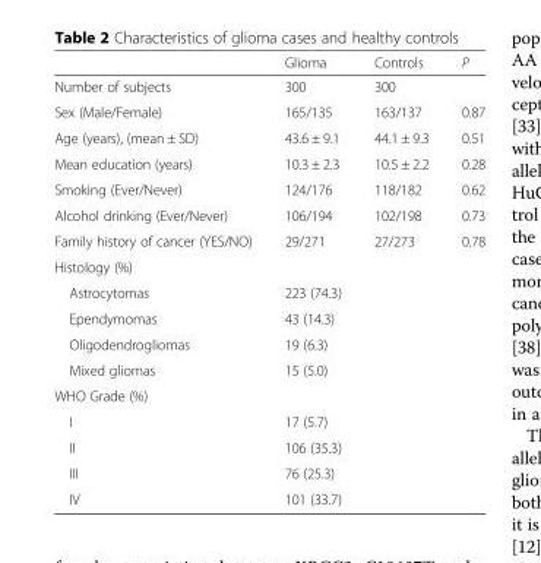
<table><thead><tr><td></td><td>Glioma</td><td>Controls</td><td>P</td></tr></thead><tbody><tr><td>Number of subjects</td><td>300</td><td>300</td><td></td></tr><tr><td>Sex (Male/Female)</td><td>165/135</td><td>163/137</td><td>0.87</td></tr><tr><td>Age (years), (mean ± SD)</td><td>43.6 ± 9.1</td><td>44.1 ± 9.3</td><td>0.51</td></tr><tr><td>Mean education (years)</td><td>10.3 ± 2.3</td><td>10.5 ± 2.2</td><td>0.28</td></tr><tr><td>Smoking (Ever/Never)</td><td>124/176</td><td>118/182</td><td>0.62</td></tr><tr><td>Alcohol drinking (Ever/Never)</td><td>106/194</td><td>102/198</td><td>0.73</td></tr><tr><td>Family history of cancer (YES/NO)</td><td>29/271</td><td>27/273</td><td>0.78</td></tr><tr><td colspan="4">Histology (%)</td></tr><tr><td>Astrocytomas</td><td>223 (74.3)</td><td></td><td></td></tr><tr><td>Ependymomas</td><td>43 (14.3)</td><td></td><td></td></tr><tr><td>Oligodendrogliomas</td><td>19 (6.3)</td><td></td><td></td></tr><tr><td>Mixed gliomas</td><td>15 (5.0)</td><td></td><td></td></tr><tr><td colspan="4">WHO Grade (%)</td></tr><tr><td>I</td><td>17 (5.7)</td><td></td><td></td></tr><tr><td>II</td><td>106 (35.3)</td><td></td><td></td></tr><tr><td>III</td><td>76 (25.3)</td><td></td><td></td></tr><tr><td>IV</td><td>101 (33.7)</td><td></td><td></td></tr></tbody></table>